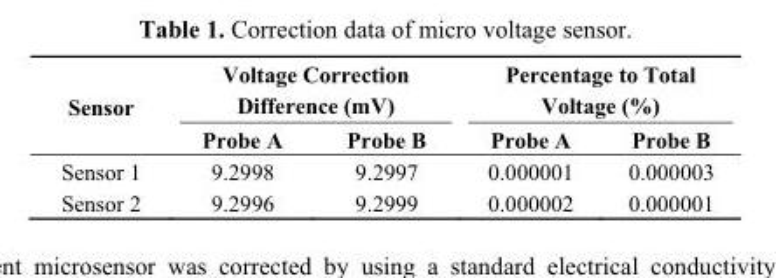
<table><thead><tr><td rowspan="2">Sensor</td><td colspan="2">Voltage Correction Difference (mV)</td><td colspan="2">Percentage to Total Voltage (%)</td></tr><tr><td>Probe A</td><td>Probe B</td><td>Probe A</td><td>Probe B</td></tr></thead><tbody><tr><td>Sensor 1</td><td>9.2998</td><td>9.2997</td><td>0.000001</td><td>0.000003</td></tr><tr><td>Sensor 2</td><td>9.2996</td><td>9.2999</td><td>0.000002</td><td>0.000001</td></tr></tbody></table>